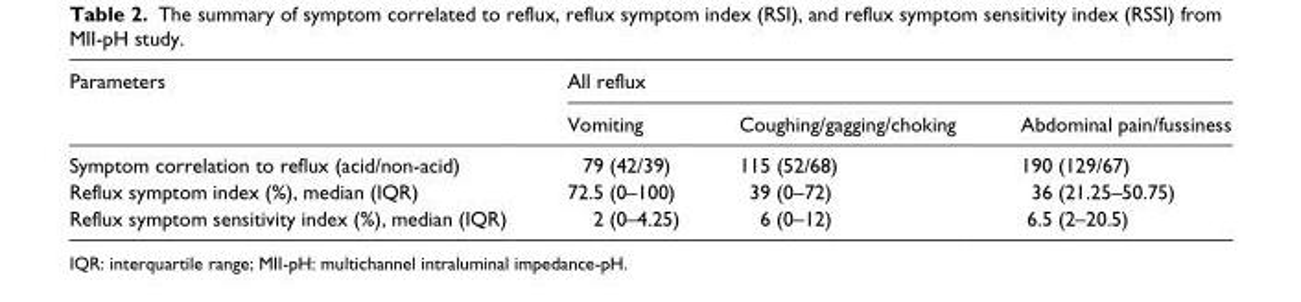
<table><thead><tr><td rowspan="2">Parameters</td><td colspan="3">All reflux</td></tr><tr><td>Vomiting</td><td>Coughing/gagging/choking</td><td>Abdominal pain/fussiness</td></tr></thead><tbody><tr><td>Symptom correlation to reflux (acid/non-acid)</td><td>79 (42/39)</td><td>115 (52/68)</td><td>190 (129/67)</td></tr><tr><td>Reflux symptom index (%), median (IQR)</td><td>72.5 (0–100)</td><td>39 (0–72)</td><td>36 (21.25–50.75)</td></tr><tr><td>Reflux symptom sensitivity index (%), median (IQR)</td><td>2 (0–4.25)</td><td>6 (0–12)</td><td>6.5 (2–20.5)</td></tr></tbody></table>